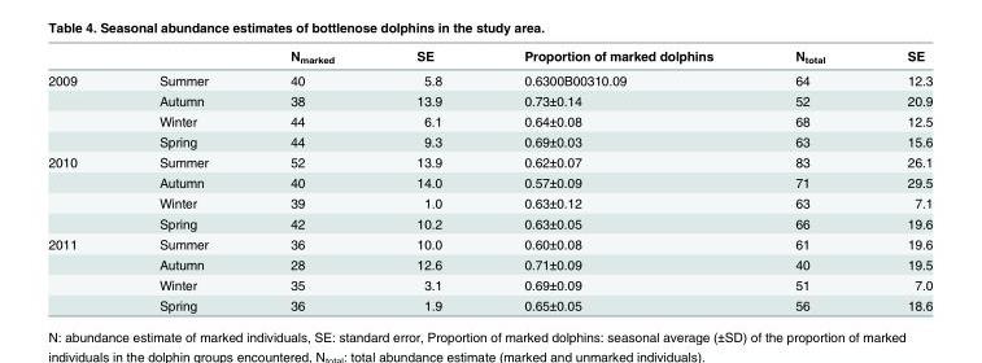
<table><thead><tr><td></td><td></td><td>N<sub>marked</sub></td><td>SE</td><td>Proportion of marked dolphins</td><td>N<sub>total</sub></td><td>SE</td></tr></thead><tbody><tr><td rowspan="4">2009</td><td>Summer</td><td>40</td><td>5.8</td><td>0.6300B00310.09</td><td>64</td><td>12.3</td></tr><tr><td>Autumn</td><td>38</td><td>13.9</td><td>0.73±0.14</td><td>52</td><td>20.9</td></tr><tr><td>Winter</td><td>44</td><td>6.1</td><td>0.64±0.08</td><td>68</td><td>12.5</td></tr><tr><td>Spring</td><td>44</td><td>9.3</td><td>0.69±0.03</td><td>63</td><td>15.6</td></tr><tr><td rowspan="4">2010</td><td>Summer</td><td>52</td><td>13.9</td><td>0.62±0.07</td><td>83</td><td>26.1</td></tr><tr><td>Autumn</td><td>40</td><td>14.0</td><td>0.57±0.09</td><td>71</td><td>29.5</td></tr><tr><td>Winter</td><td>39</td><td>1.0</td><td>0.63±0.12</td><td>63</td><td>7.1</td></tr><tr><td>Spring</td><td>42</td><td>10.2</td><td>0.63±0.05</td><td>66</td><td>19.6</td></tr><tr><td rowspan="4">2011</td><td>Summer</td><td>36</td><td>10.0</td><td>0.60±0.08</td><td>61</td><td>19.6</td></tr><tr><td>Autumn</td><td>28</td><td>12.6</td><td>0.71±0.09</td><td>40</td><td>19.5</td></tr><tr><td>Winter</td><td>35</td><td>3.1</td><td>0.69±0.09</td><td>51</td><td>7.0</td></tr><tr><td>Spring</td><td>36</td><td>1.9</td><td>0.65±0.05</td><td>56</td><td>18.6</td></tr></tbody></table>